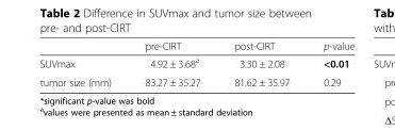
<table><thead><tr><td></td><td>pre-CIRT</td><td>post-CIRT</td><td>p-value</td></tr></thead><tbody><tr><td>SUVmax</td><td>4.92 ± 3.68<sup>a</sup></td><td>3.30 ± 2.08</td><td>&lt;0.01</td></tr><tr><td>tumor size (mm)</td><td>83.27 ± 35.27</td><td>81.62 ± 35.97</td><td>0.29</td></tr></tbody></table>